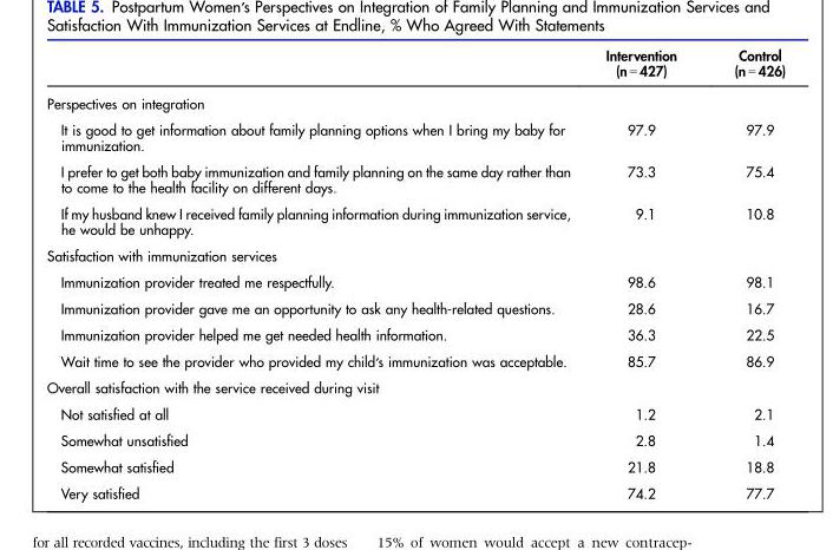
<table><thead><tr><td></td><td>Intervention (n = 427)</td><td>Control (n = 426)</td></tr></thead><tbody><tr><td colspan="3">Perspectives on integration</td></tr><tr><td>It is good to get information about family planning options when I bring my baby for immunization.</td><td>97.9</td><td>97.9</td></tr><tr><td>I prefer to get both baby immunization and family planning on the same day rather than to come to the health facility on different days.</td><td>73.3</td><td>75.4</td></tr><tr><td>If my husband knew I received family planning information during immunization service, he would be unhappy.</td><td>9.1</td><td>10.8</td></tr><tr><td colspan="3">Satisfaction with immunization services</td></tr><tr><td>Immunization provider treated me respectfully.</td><td>98.6</td><td>98.1</td></tr><tr><td>Immunization provider gave me an opportunity to ask any health-related questions.</td><td>28.6</td><td>16.7</td></tr><tr><td>Immunization provider helped me get needed health information.</td><td>36.3</td><td>22.5</td></tr><tr><td>Wait time to see the provider who provided my child’s immunization was acceptable.</td><td>85.7</td><td>86.9</td></tr><tr><td colspan="3">Overall satisfaction with the service received during visit</td></tr><tr><td>Not satisfied at all</td><td>1.2</td><td>2.1</td></tr><tr><td>Somewhat unsatisfied</td><td>2.8</td><td>1.4</td></tr><tr><td>Somewhat satisfied</td><td>21.8</td><td>18.8</td></tr><tr><td>Very satisfied</td><td>74.2</td><td>77.7</td></tr></tbody></table>